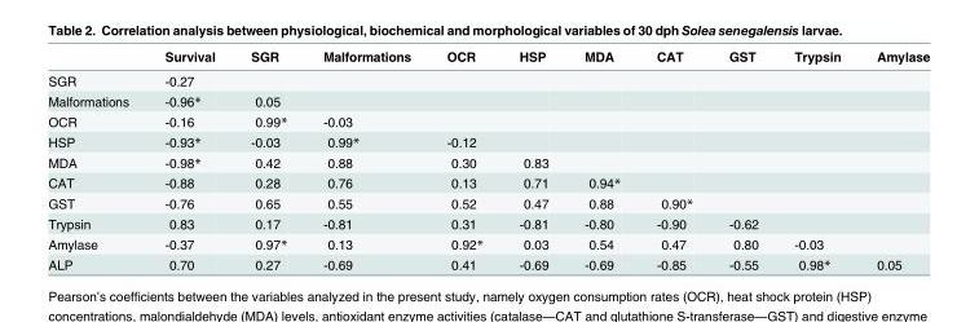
<table><thead><tr><td></td><td>Survival</td><td>SGR</td><td>Malformations</td><td>OCR</td><td>HSP</td><td>MDA</td><td>CAT</td><td>GST</td><td>Trypsin</td><td>Amylase</td></tr></thead><tbody><tr><td>SGR</td><td>-0.27</td><td></td><td></td><td></td><td></td><td></td><td></td><td></td><td></td><td></td></tr><tr><td>Malformations</td><td>-0.96*</td><td>0.05</td><td></td><td></td><td></td><td></td><td></td><td></td><td></td><td></td></tr><tr><td>OCR</td><td>-0.16</td><td>0.99*</td><td>-0.03</td><td></td><td></td><td></td><td></td><td></td><td></td><td></td></tr><tr><td>HSP</td><td>-0.93*</td><td>-0.03</td><td>0.99*</td><td>-0.12</td><td></td><td></td><td></td><td></td><td></td><td></td></tr><tr><td>MDA</td><td>-0.98*</td><td>0.42</td><td>0.88</td><td>0.30</td><td>0.83</td><td></td><td></td><td></td><td></td><td></td></tr><tr><td>CAT</td><td>-0.88</td><td>0.28</td><td>0.76</td><td>0.13</td><td>0.71</td><td>0.94*</td><td></td><td></td><td></td><td></td></tr><tr><td>GST</td><td>-0.76</td><td>0.65</td><td>0.55</td><td>0.52</td><td>0.47</td><td>0.88</td><td>0.90*</td><td></td><td></td><td></td></tr><tr><td>Trypsin</td><td>0.83</td><td>0.17</td><td>-0.81</td><td>0.31</td><td>-0.81</td><td>-0.80</td><td>-0.90</td><td>-0.62</td><td></td><td></td></tr><tr><td>Amylase</td><td>-0.37</td><td>0.97*</td><td>0.13</td><td>0.92*</td><td>0.03</td><td>0.54</td><td>0.47</td><td>0.80</td><td>-0.03</td><td></td></tr><tr><td>ALP</td><td>0.70</td><td>0.27</td><td>-0.69</td><td>0.41</td><td>-0.69</td><td>-0.69</td><td>-0.85</td><td>-0.55</td><td>0.98*</td><td>0.05</td></tr></tbody></table>